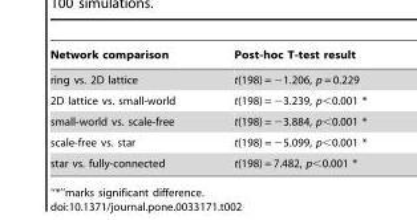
<table><thead><tr><td>Network comparison</td><td>Post-hoc T-test result</td></tr></thead><tbody><tr><td>ring vs. 2D lattice</td><td>t(198) = −1.206, p = 0.229</td></tr><tr><td>2D lattice vs. small-world</td><td>t(198) = −3.239, p&lt;0.001 *</td></tr><tr><td>small-world vs. scale-free</td><td>t(198) = −3.884, p&lt;0.001 *</td></tr><tr><td>scale-free vs. star</td><td>t(198) = −5.099, p&lt;0.001 *</td></tr><tr><td>star vs. fully-connected</td><td>t(198) = 7.482, p&lt;0.001 *</td></tr></tbody></table>